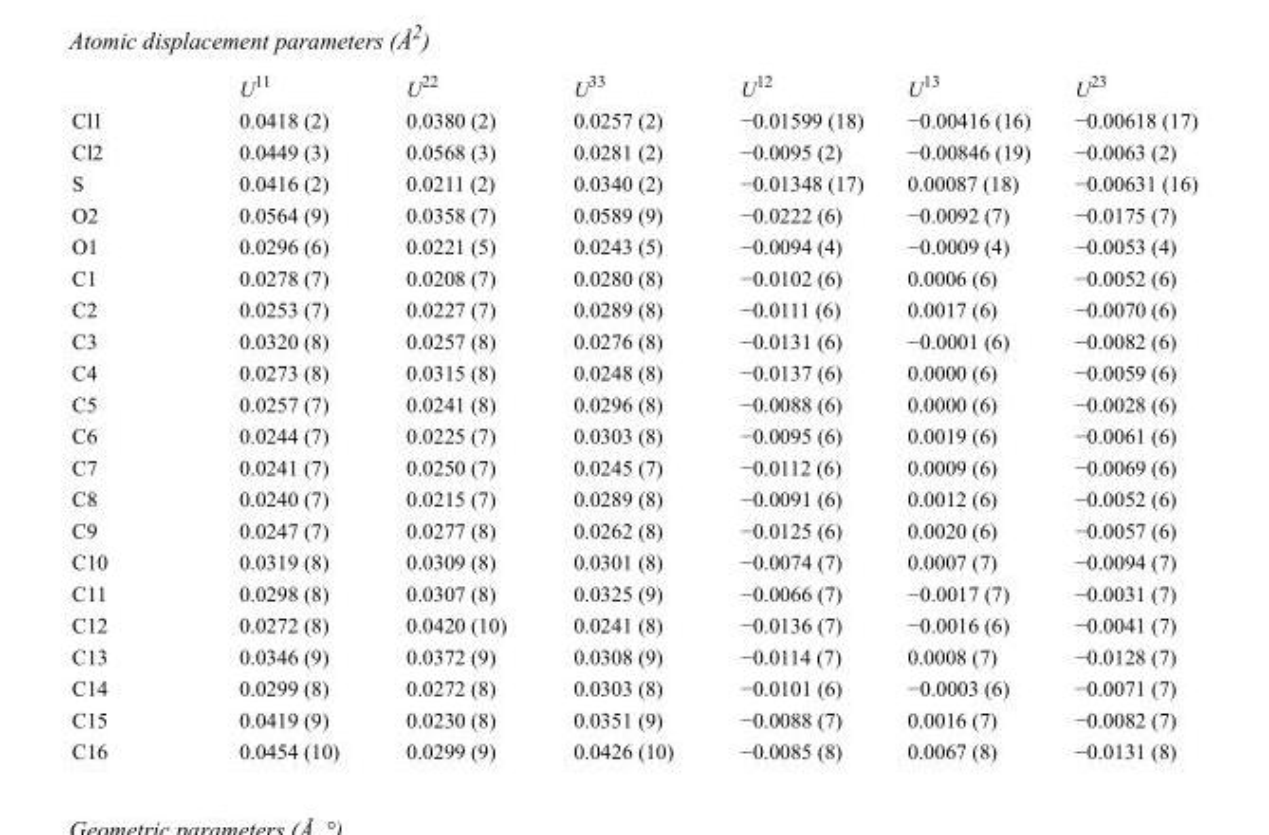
<table><thead><tr><td></td><td>U<sup>11</sup></td><td>U<sup>22</sup></td><td>U<sup>33</sup></td><td>U<sup>12</sup></td><td>U<sup>13</sup></td><td>U<sup>23</sup></td></tr></thead><tbody><tr><td>Cl1</td><td>0.0418 (2)</td><td>0.0380 (2)</td><td>0.0257 (2)</td><td>−0.01599 (18)</td><td>−0.00416 (16)</td><td>−0.00618 (17)</td></tr><tr><td>Cl2</td><td>0.0449 (3)</td><td>0.0568 (3)</td><td>0.0281 (2)</td><td>−0.0095 (2)</td><td>−0.00846 (19)</td><td>−0.0063 (2)</td></tr><tr><td>S</td><td>0.0416 (2)</td><td>0.0211 (2)</td><td>0.0340 (2)</td><td>−0.01348 (17)</td><td>0.00087 (18)</td><td>−0.00631 (16)</td></tr><tr><td>O2</td><td>0.0564 (9)</td><td>0.0358 (7)</td><td>0.0589 (9)</td><td>−0.0222 (6)</td><td>−0.0092 (7)</td><td>−0.0175 (7)</td></tr><tr><td>O1</td><td>0.0296 (6)</td><td>0.0221 (5)</td><td>0.0243 (5)</td><td>−0.0094 (4)</td><td>−0.0009 (4)</td><td>−0.0053 (4)</td></tr><tr><td>C1</td><td>0.0278 (7)</td><td>0.0208 (7)</td><td>0.0280 (8)</td><td>−0.0102 (6)</td><td>0.0006 (6)</td><td>−0.0052 (6)</td></tr><tr><td>C2</td><td>0.0253 (7)</td><td>0.0227 (7)</td><td>0.0289 (8)</td><td>−0.0111 (6)</td><td>0.0017 (6)</td><td>−0.0070 (6)</td></tr><tr><td>C3</td><td>0.0320 (8)</td><td>0.0257 (8)</td><td>0.0276 (8)</td><td>−0.0131 (6)</td><td>−0.0001 (6)</td><td>−0.0082 (6)</td></tr><tr><td>C4</td><td>0.0273 (8)</td><td>0.0315 (8)</td><td>0.0248 (8)</td><td>−0.0137 (6)</td><td>0.0000 (6)</td><td>−0.0059 (6)</td></tr><tr><td>C5</td><td>0.0257 (7)</td><td>0.0241 (8)</td><td>0.0296 (8)</td><td>−0.0088 (6)</td><td>0.0000 (6)</td><td>−0.0028 (6)</td></tr><tr><td>C6</td><td>0.0244 (7)</td><td>0.0225 (7)</td><td>0.0303 (8)</td><td>−0.0095 (6)</td><td>0.0019 (6)</td><td>−0.0061 (6)</td></tr><tr><td>C7</td><td>0.0241 (7)</td><td>0.0250 (7)</td><td>0.0245 (7)</td><td>−0.0112 (6)</td><td>0.0009 (6)</td><td>−0.0069 (6)</td></tr><tr><td>C8</td><td>0.0240 (7)</td><td>0.0215 (7)</td><td>0.0289 (8)</td><td>−0.0091 (6)</td><td>0.0012 (6)</td><td>−0.0052 (6)</td></tr><tr><td>C9</td><td>0.0247 (7)</td><td>0.0277 (8)</td><td>0.0262 (8)</td><td>−0.0125 (6)</td><td>0.0020 (6)</td><td>−0.0057 (6)</td></tr><tr><td>C10</td><td>0.0319 (8)</td><td>0.0309 (8)</td><td>0.0301 (8)</td><td>−0.0074 (7)</td><td>0.0007 (7)</td><td>−0.0094 (7)</td></tr><tr><td>C11</td><td>0.0298 (8)</td><td>0.0307 (8)</td><td>0.0325 (9)</td><td>−0.0066 (7)</td><td>−0.0017 (7)</td><td>−0.0031 (7)</td></tr><tr><td>C12</td><td>0.0272 (8)</td><td>0.0420 (10)</td><td>0.0241 (8)</td><td>−0.0136 (7)</td><td>−0.0016 (6)</td><td>−0.0041 (7)</td></tr><tr><td>C13</td><td>0.0346 (9)</td><td>0.0372 (9)</td><td>0.0308 (9)</td><td>−0.0114 (7)</td><td>0.0008 (7)</td><td>−0.0128 (7)</td></tr><tr><td>C14</td><td>0.0299 (8)</td><td>0.0272 (8)</td><td>0.0303 (8)</td><td>−0.0101 (6)</td><td>−0.0003 (6)</td><td>−0.0071 (7)</td></tr><tr><td>C15</td><td>0.0419 (9)</td><td>0.0230 (8)</td><td>0.0351 (9)</td><td>−0.0088 (7)</td><td>0.0016 (7)</td><td>−0.0082 (7)</td></tr><tr><td>C16</td><td>0.0454 (10)</td><td>0.0299 (9)</td><td>0.0426 (10)</td><td>−0.0085 (8)</td><td>0.0067 (8)</td><td>−0.0131 (8)</td></tr></tbody></table>